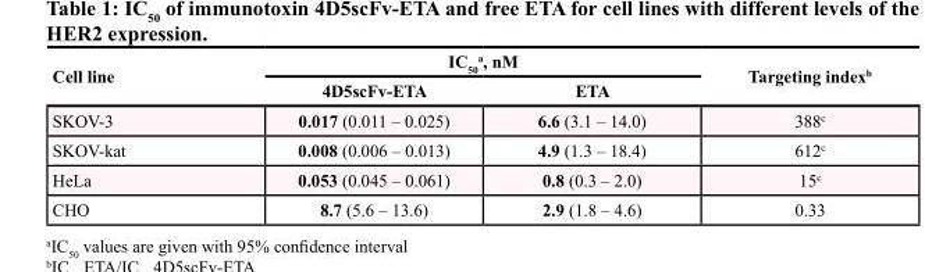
<table><thead><tr><td rowspan="2">Cell line</td><td colspan="2">IC<sub>50</sub> <sup>a</sup>, nM</td><td rowspan="2">Targeting index<sup>b</sup></td></tr><tr><td>4D5scFv-ETA</td><td>ETA</td></tr></thead><tbody><tr><td>SKOV-3</td><td>0.017 (0.011 – 0.025)</td><td>6.6 (3.1 – 14.0)</td><td>388<sup>c</sup></td></tr><tr><td>SKOV-kat</td><td>0.008 (0.006 – 0.013)</td><td>4.9 (1.3 – 18.4)</td><td>612<sup>c</sup></td></tr><tr><td>HeLa</td><td>0.053 (0.045 – 0.061)</td><td>0.8 (0.3 – 2.0)</td><td>15<sup>c</sup></td></tr><tr><td>CHO</td><td>8.7 (5.6 – 13.6)</td><td>2.9 (1.8 – 4.6)</td><td>0.33</td></tr></tbody></table>